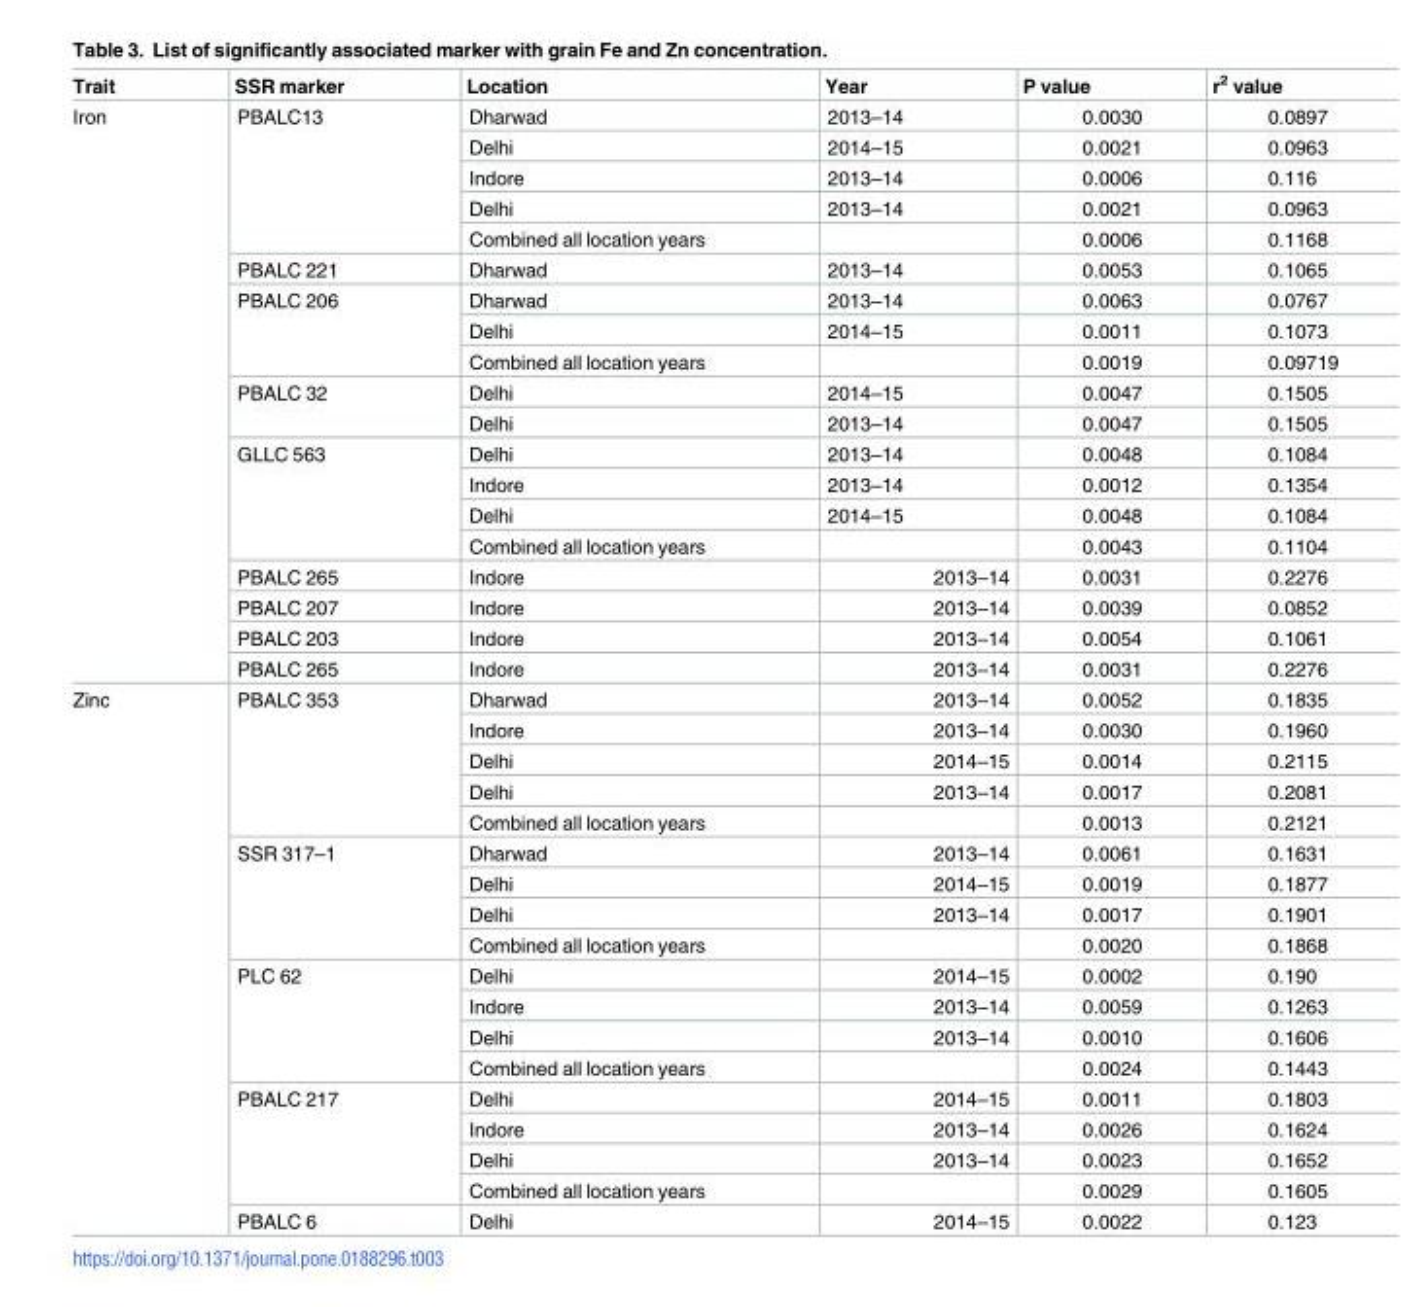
<table><thead><tr><td>Trait</td><td>SSR marker</td><td>Location</td><td>Year</td><td>P value</td><td>r<sup>2</sup> value</td></tr></thead><tbody><tr><td rowspan="19">Iron</td><td rowspan="5">PBALC13</td><td>Dharwad</td><td>2013–14</td><td>0.0030</td><td>0.0897</td></tr><tr><td>Delhi</td><td>2014–15</td><td>0.0021</td><td>0.0963</td></tr><tr><td>Indore</td><td>2013–14</td><td>0.0006</td><td>0.116</td></tr><tr><td>Delhi</td><td>2013–14</td><td>0.0021</td><td>0.0963</td></tr><tr><td>Combined all location years</td><td></td><td>0.0006</td><td>0.1168</td></tr><tr><td>PBALC 221</td><td>Dharwad</td><td>2013–14</td><td>0.0053</td><td>0.1065</td></tr><tr><td rowspan="3">PBALC 206</td><td>Dharwad</td><td>2013–14</td><td>0.0063</td><td>0.0767</td></tr><tr><td>Delhi</td><td>2014–15</td><td>0.0011</td><td>0.1073</td></tr><tr><td>Combined all location years</td><td></td><td>0.0019</td><td>0.09719</td></tr><tr><td rowspan="2">PBALC 32</td><td>Delhi</td><td>2014–15</td><td>0.0047</td><td>0.1505</td></tr><tr><td>Delhi</td><td>2013–14</td><td>0.0047</td><td>0.1505</td></tr><tr><td rowspan="4">GLLC 563</td><td>Delhi</td><td>2013–14</td><td>0.0048</td><td>0.1084</td></tr><tr><td>Indore</td><td>2013–14</td><td>0.0012</td><td>0.1354</td></tr><tr><td>Delhi</td><td>2014–15</td><td>0.0048</td><td>0.1084</td></tr><tr><td>Combined all location years</td><td></td><td>0.0043</td><td>0.1104</td></tr><tr><td>PBALC 265</td><td>Indore</td><td>2013–14</td><td>0.0031</td><td>0.2276</td></tr><tr><td>PBALC 207</td><td>Indore</td><td>2013–14</td><td>0.0039</td><td>0.0852</td></tr><tr><td>PBALC 203</td><td>Indore</td><td>2013–14</td><td>0.0054</td><td>0.1061</td></tr><tr><td>PBALC 265</td><td>Indore</td><td>2013–14</td><td>0.0031</td><td>0.2276</td></tr><tr><td rowspan="18">Zinc</td><td rowspan="5">PBALC 353</td><td>Dharwad</td><td>2013–14</td><td>0.0052</td><td>0.1835</td></tr><tr><td>Indore</td><td>2013–14</td><td>0.0030</td><td>0.1960</td></tr><tr><td>Delhi</td><td>2014–15</td><td>0.0014</td><td>0.2115</td></tr><tr><td>Delhi</td><td>2013–14</td><td>0.0017</td><td>0.2081</td></tr><tr><td>Combined all location years</td><td></td><td>0.0013</td><td>0.2121</td></tr><tr><td rowspan="4">SSR 317–1</td><td>Dharwad</td><td>2013–14</td><td>0.0061</td><td>0.1631</td></tr><tr><td>Delhi</td><td>2014–15</td><td>0.0019</td><td>0.1877</td></tr><tr><td>Delhi</td><td>2013–14</td><td>0.0017</td><td>0.1901</td></tr><tr><td>Combined all location years</td><td></td><td>0.0020</td><td>0.1868</td></tr><tr><td rowspan="4">PLC 62</td><td>Delhi</td><td>2014–15</td><td>0.0002</td><td>0.190</td></tr><tr><td>Indore</td><td>2013–14</td><td>0.0059</td><td>0.1263</td></tr><tr><td>Delhi</td><td>2013–14</td><td>0.0010</td><td>0.1606</td></tr><tr><td>Combined all location years</td><td></td><td>0.0024</td><td>0.1443</td></tr><tr><td rowspan="4">PBALC 217</td><td>Delhi</td><td>2014–15</td><td>0.0011</td><td>0.1803</td></tr><tr><td>Indore</td><td>2013–14</td><td>0.0026</td><td>0.1624</td></tr><tr><td>Delhi</td><td>2013–14</td><td>0.0023</td><td>0.1652</td></tr><tr><td>Combined all location years</td><td></td><td>0.0029</td><td>0.1605</td></tr><tr><td>PBALC 6</td><td>Delhi</td><td>2014–15</td><td>0.0022</td><td>0.123</td></tr></tbody></table>